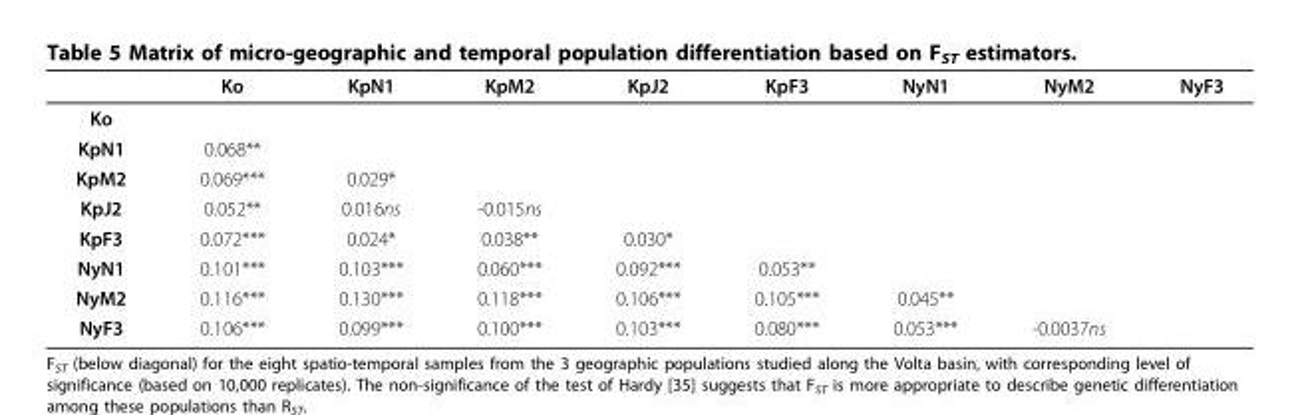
<table><thead><tr><td></td><td>Ko</td><td>KpN1</td><td>KpM2</td><td>KpJ2</td><td>KpF3</td><td>NyN1</td><td>NyM2</td><td>NyF3</td></tr></thead><tbody><tr><td colspan="9">Ko</td></tr><tr><td>KpN1</td><td>0.068**</td><td></td><td></td><td></td><td></td><td></td><td></td><td></td></tr><tr><td>KpM2</td><td>0.069***</td><td>0.029*</td><td></td><td></td><td></td><td></td><td></td><td></td></tr><tr><td>KpJ2</td><td>0.052**</td><td>0.016ns</td><td>-0.015ns</td><td></td><td></td><td></td><td></td><td></td></tr><tr><td>KpF3</td><td>0.072***</td><td>0.024*</td><td>0.038**</td><td>0.030*</td><td></td><td></td><td></td><td></td></tr><tr><td>NyN1</td><td>0.101***</td><td>0.103***</td><td>0.060***</td><td>0.092***</td><td>0.053**</td><td></td><td></td><td></td></tr><tr><td>NyM2</td><td>0.116***</td><td>0.130***</td><td>0.118***</td><td>0.106***</td><td>0.105***</td><td>0.045**</td><td></td><td></td></tr><tr><td>NyF3</td><td>0.106***</td><td>0.099***</td><td>0.100***</td><td>0.103***</td><td>0.080***</td><td>0.053***</td><td>-0.0037ns</td><td></td></tr></tbody></table>